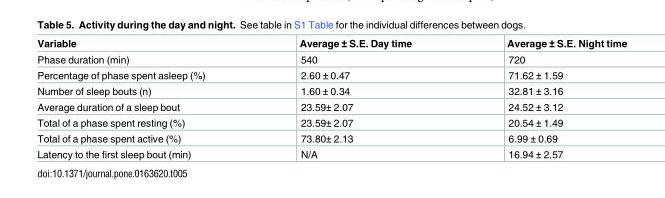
<table><thead><tr><td>Variable</td><td>Average ± S.E. Day time</td><td>Average ± S.E. Night time</td></tr></thead><tbody><tr><td>Phase duration (min)</td><td>540</td><td>720</td></tr><tr><td>Percentage of phase spent asleep (%)</td><td>2.60 ± 0.47</td><td>71.62 ± 1.59</td></tr><tr><td>Number of sleep bouts (n)</td><td>1.60 ± 0.34</td><td>32.81 ± 3.16</td></tr><tr><td>Average duration of a sleep bout</td><td>23.59± 2.07</td><td>24.52 ± 3.12</td></tr><tr><td>Total of a phase spent resting (%)</td><td>23.59± 2.07</td><td>20.54 ± 1.49</td></tr><tr><td>Total of a phase spent active (%)</td><td>73.80± 2.13</td><td>6.99 ± 0.69</td></tr><tr><td>Latency to the first sleep bout (min)</td><td>N/A</td><td>16.94 ± 2.57</td></tr></tbody></table>